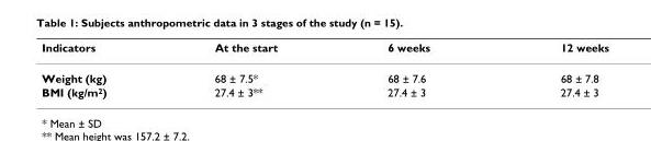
<table><thead><tr><td>Indicators</td><td>At the start</td><td>6 weeks</td><td>12 weeks</td></tr></thead><tbody><tr><td>Weight (kg)</td><td>68 ± 7.5*</td><td>68 ± 7.6</td><td>68 ± 7.8</td></tr><tr><td>BMI (kg/m<sup>2</sup>)</td><td>27.4 ± 3**</td><td>27.4 ± 3</td><td>27.4 ± 3</td></tr></tbody></table>